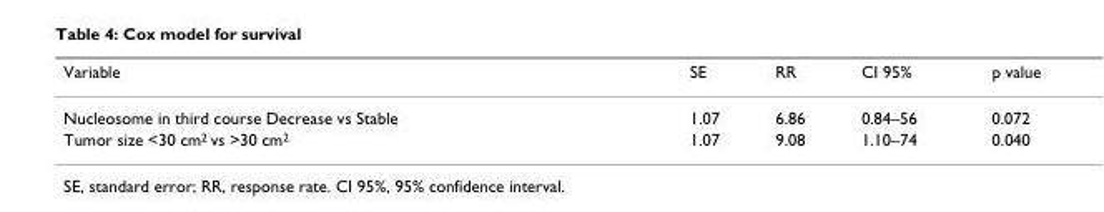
<table><thead><tr><td>Variable</td><td>SE</td><td>RR</td><td>CI 95%</td><td>p value</td></tr></thead><tbody><tr><td>Nucleosome in third course Decrease vs Stable</td><td>1.07</td><td>6.86</td><td>0.84–56</td><td>0.072</td></tr><tr><td>Tumor size &lt;30 cm2 vs &gt;30 cm2</td><td>1.07</td><td>9.08</td><td>1.10–74</td><td>0.040</td></tr></tbody></table>